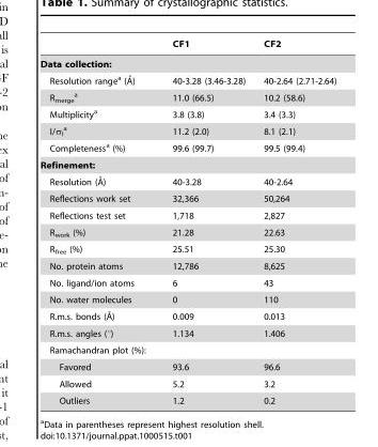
<table><thead><tr><td></td><td>CF1</td><td>CF2</td></tr></thead><tbody><tr><td colspan="3">Data collection:</td></tr><tr><td>Resolution rangea (A˚)</td><td>40-3.28 (3.46-3.28)</td><td>40-2.64 (2.71-2.64)</td></tr><tr><td>R<sub>merge</sub> a</td><td>11.0 (66.5)</td><td>10.2 (58.6)</td></tr><tr><td>Multiplicity<sup>a</sup></td><td>3.8 (3.8)</td><td>3.4 (3.3)</td></tr><tr><td>I/σ<sub>I</sub> a</td><td>11.2 (2.0)</td><td>8.1 (2.1)</td></tr><tr><td>Completeness<sup>a</sup> (%)</td><td>99.6 (99.7)</td><td>99.5 (99.4)</td></tr><tr><td colspan="3">Refinement:</td></tr><tr><td>Resolution (A˚)</td><td>40-3.28</td><td>40-2.64</td></tr><tr><td>Reflections work set</td><td>32,366</td><td>50,264</td></tr><tr><td>Reflections test set</td><td>1,718</td><td>2,827</td></tr><tr><td>R<sub>work</sub> (%)</td><td>21.28</td><td>22.63</td></tr><tr><td>R<sub>free</sub> (%)</td><td>25.51</td><td>25.30</td></tr><tr><td>No. protein atoms</td><td>12,786</td><td>8,625</td></tr><tr><td>No. ligand/ion atoms</td><td>6</td><td>43</td></tr><tr><td>No. water molecules</td><td>0</td><td>110</td></tr><tr><td>R.m.s. bonds (A˚)</td><td>0.009</td><td>0.013</td></tr><tr><td>R.m.s. angles (°)</td><td>1.134</td><td>1.406</td></tr><tr><td colspan="3">Ramachandran plot (%):</td></tr><tr><td>Favored</td><td>93.6</td><td>96.6</td></tr><tr><td>Allowed</td><td>5.2</td><td>3.2</td></tr><tr><td>Outliers</td><td>1.2</td><td>0.2</td></tr></tbody></table>